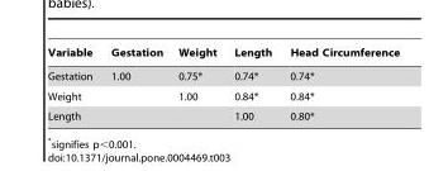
<table><thead><tr><td>Variable</td><td>Gestation</td><td>Weight</td><td>Length</td><td>Head Circumference</td></tr></thead><tbody><tr><td>Gestation</td><td>1.00</td><td>0.75*</td><td>0.74*</td><td>0.74*</td></tr><tr><td>Weight</td><td></td><td>1.00</td><td>0.84*</td><td>0.84*</td></tr><tr><td>Length</td><td></td><td></td><td>1.00</td><td>0.80*</td></tr></tbody></table>